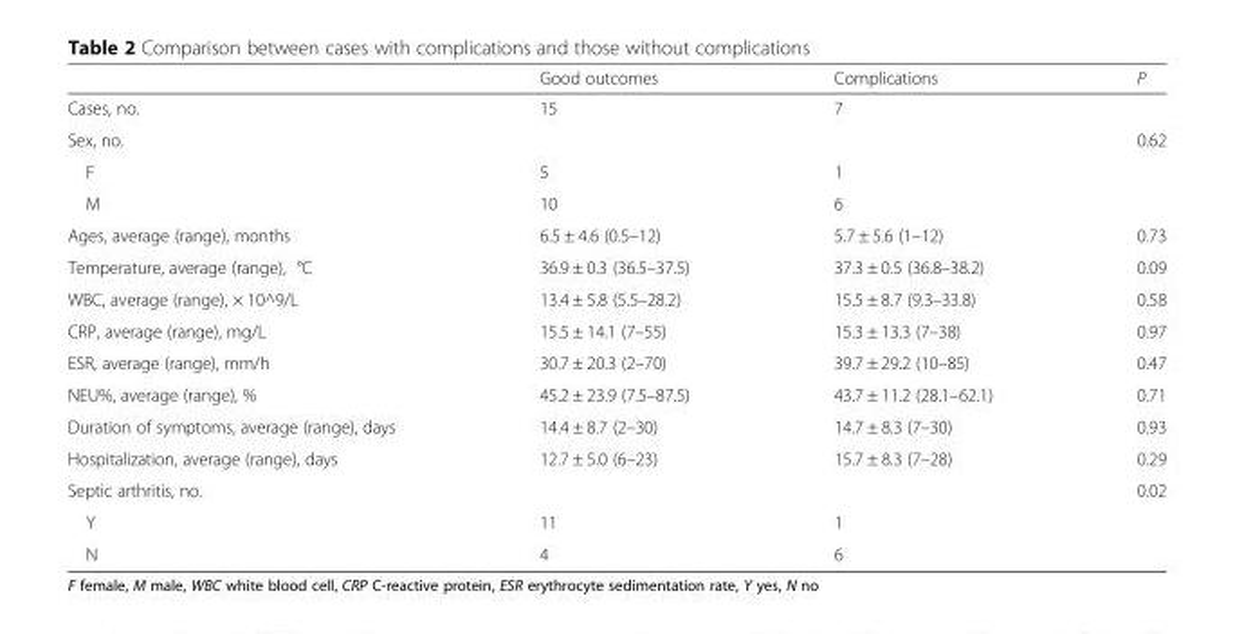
<table><thead><tr><td></td><td>Good outcomes</td><td>Complications</td><td>P</td></tr></thead><tbody><tr><td>Cases, no.</td><td>15</td><td>7</td><td></td></tr><tr><td>Sex, no.</td><td></td><td></td><td>0.62</td></tr><tr><td>F</td><td>5</td><td>1</td><td></td></tr><tr><td>M</td><td>10</td><td>6</td><td></td></tr><tr><td>Ages, average (range), months</td><td>6.5 ± 4.6 (0.5–12)</td><td>5.7 ± 5.6 (1–12)</td><td>0.73</td></tr><tr><td>Temperature, average (range), °C</td><td>36.9 ± 0.3 (36.5–37.5)</td><td>37.3 ± 0.5 (36.8–38.2)</td><td>0.09</td></tr><tr><td>WBC, average (range), × 10^9/L</td><td>13.4 ± 5.8 (5.5–28.2)</td><td>15.5 ± 8.7 (9.3–33.8)</td><td>0.58</td></tr><tr><td>CRP, average (range), mg/L</td><td>15.5 ± 14.1 (7–55)</td><td>15.3 ± 13.3 (7–38)</td><td>0.97</td></tr><tr><td>ESR, average (range), mm/h</td><td>30.7 ± 20.3 (2–70)</td><td>39.7 ± 29.2 (10–85)</td><td>0.47</td></tr><tr><td>NEU%, average (range), %</td><td>45.2 ± 23.9 (7.5–87.5)</td><td>43.7 ± 11.2 (28.1–62.1)</td><td>0.71</td></tr><tr><td>Duration of symptoms, average (range), days</td><td>14.4 ± 8.7 (2–30)</td><td>14.7 ± 8.3 (7–30)</td><td>0.93</td></tr><tr><td>Hospitalization, average (range), days</td><td>12.7 ± 5.0 (6–23)</td><td>15.7 ± 8.3 (7–28)</td><td>0.29</td></tr><tr><td>Septic arthritis, no.</td><td></td><td></td><td>0.02</td></tr><tr><td>Y</td><td>11</td><td>1</td><td></td></tr><tr><td>N</td><td>4</td><td>6</td><td></td></tr></tbody></table>